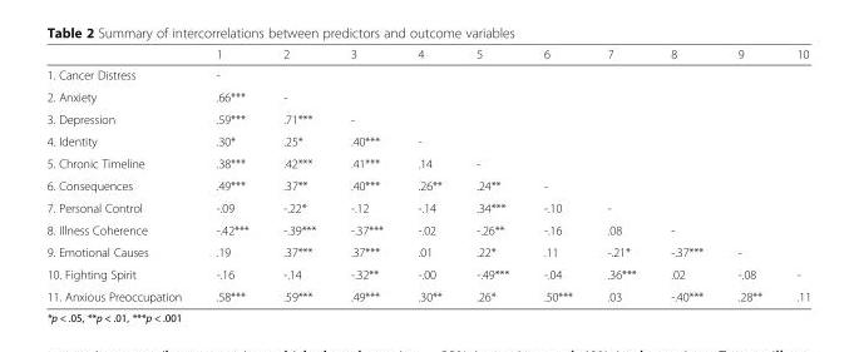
<table><thead><tr><td></td><td>1</td><td>2</td><td>3</td><td>4</td><td>5</td><td>6</td><td>7</td><td>8</td><td>9</td><td>10</td></tr></thead><tbody><tr><td>1. Cancer Distress</td><td>-</td><td></td><td></td><td></td><td></td><td></td><td></td><td></td><td></td><td></td></tr><tr><td>2. Anxiety</td><td>.66***</td><td>-</td><td></td><td></td><td></td><td></td><td></td><td></td><td></td><td></td></tr><tr><td>3. Depression</td><td>.59***</td><td>.71***</td><td>-</td><td></td><td></td><td></td><td></td><td></td><td></td><td></td></tr><tr><td>4. Identity</td><td>.30*</td><td>.25*</td><td>.40***</td><td>-</td><td></td><td></td><td></td><td></td><td></td><td></td></tr><tr><td>5. Chronic Timeline</td><td>.38***</td><td>.42***</td><td>.41***</td><td>.14</td><td>-</td><td></td><td></td><td></td><td></td><td></td></tr><tr><td>6. Consequences</td><td>.49***</td><td>.37**</td><td>.40***</td><td>.26**</td><td>.24**</td><td>-</td><td></td><td></td><td></td><td></td></tr><tr><td>7. Personal Control</td><td>-.09</td><td>-.22*</td><td>-.12</td><td>-.14</td><td>.34***</td><td>-.10</td><td>-</td><td></td><td></td><td></td></tr><tr><td>8. Illness Coherence</td><td>-.42***</td><td>-.39***</td><td>-.37***</td><td>-.02</td><td>-.26**</td><td>-.16</td><td>.08</td><td>-</td><td></td><td></td></tr><tr><td>9. Emotional Causes</td><td>.19</td><td>.37***</td><td>.37***</td><td>.01</td><td>.22*</td><td>.11</td><td>-.21*</td><td>-.37***</td><td>-</td><td></td></tr><tr><td>10. Fighting Spirit</td><td>-.16</td><td>-.14</td><td>-.32**</td><td>-.00</td><td>-.49***</td><td>-.04</td><td>.36***</td><td>.02</td><td>-.08</td><td>-</td></tr><tr><td>11. Anxious Preoccupation</td><td>.58***</td><td>.59***</td><td>.49***</td><td>.30**</td><td>.26*</td><td>.50***</td><td>.03</td><td>-.40***</td><td>.28**</td><td>.11</td></tr></tbody></table>